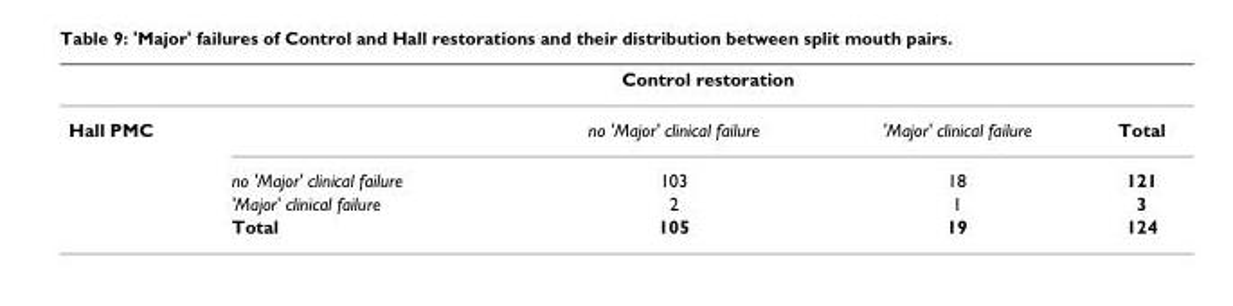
<table><thead><tr><td rowspan="2">Hall PMC</td><td colspan="4">Control restoration</td></tr><tr><td></td><td>no &#x27;Major&#x27; clinical failure</td><td>&#x27;Major&#x27; clinical failure</td><td>Total</td></tr></thead><tbody><tr><td></td><td>no &#x27;Major&#x27; clinical failure</td><td>103</td><td>18</td><td>121</td></tr><tr><td></td><td>&#x27;Major&#x27; clinical failure</td><td>2</td><td>1</td><td>3</td></tr><tr><td></td><td>Total</td><td>105</td><td>19</td><td>124</td></tr></tbody></table>